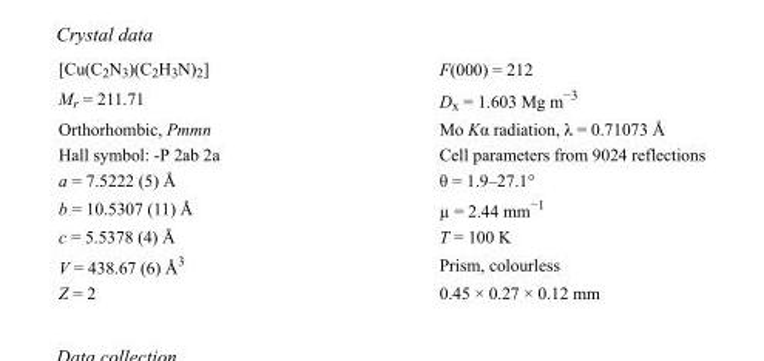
<table><tbody><tr><td>[Cu(C<sub>2</sub>N<sub>3</sub>)(C<sub>2</sub>H<sub>3</sub>N)<sub>2</sub>]</td><td>F(000) = 212</td></tr><tr><td>M<sub>r</sub> = 211.71</td><td>D<sub>x</sub> = 1.603 Mg m<sup>−3</sup></td></tr><tr><td>Orthorhombic, Pmmn</td><td>Mo Kα radiation, λ = 0.71073 Å</td></tr><tr><td>Hall symbol: -P 2ab 2a</td><td>Cell parameters from 9024 reflections</td></tr><tr><td>a = 7.5222 (5) Å</td><td>θ = 1.9–27.1°</td></tr><tr><td>b = 10.5307 (11) Å</td><td>µ = 2.44 mm<sup>−1</sup></td></tr><tr><td>c = 5.5378 (4) Å</td><td>T = 100 K</td></tr><tr><td>V = 438.67 (6) Å<sup>3</sup></td><td>Prism, colourless</td></tr><tr><td>Z = 2</td><td>0.45 × 0.27 × 0.12 mm</td></tr></tbody></table>